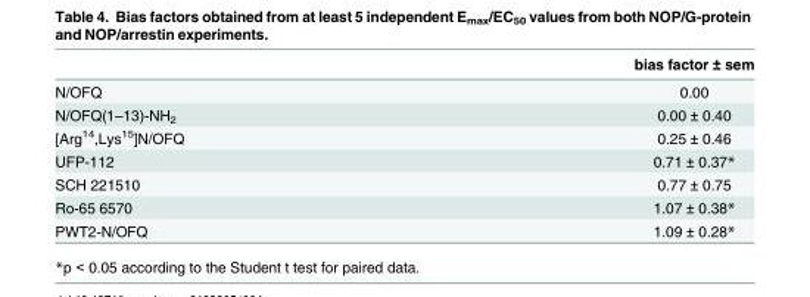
<table><thead><tr><td></td><td>bias factor ± sem</td></tr></thead><tbody><tr><td>N/OFQ</td><td>0.00</td></tr><tr><td>N/OFQ(1–13)-NH<sub>2</sub></td><td>0.00 ± 0.40</td></tr><tr><td>[Arg<sup>14</sup>,Lys<sup>15</sup>]N/OFQ</td><td>0.25 ± 0.46</td></tr><tr><td>UFP-112</td><td>0.71 ± 0.37*</td></tr><tr><td>SCH 221510</td><td>0.77 ± 0.75</td></tr><tr><td>Ro-65 6570</td><td>1.07 ± 0.38*</td></tr><tr><td>PWT2-N/OFQ</td><td>1.09 ± 0.28*</td></tr></tbody></table>